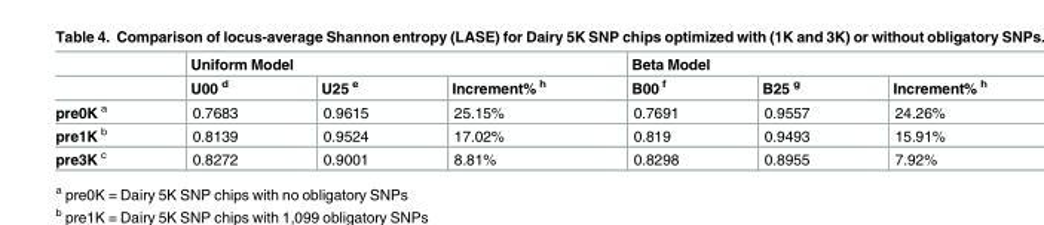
<table><thead><tr><td rowspan="2"></td><td colspan="3">Uniform Model</td><td colspan="3">Beta Model</td></tr><tr><td>U00 <sup>d</sup></td><td>U25 <sup>e</sup></td><td>Increment% <sup>h</sup></td><td>B00 <sup>f</sup></td><td>B25 <sup>g</sup></td><td>Increment% <sup>h</sup></td></tr></thead><tbody><tr><td>pre0K <sup>a</sup></td><td>0.7683</td><td>0.9615</td><td>25.15%</td><td>0.7691</td><td>0.9557</td><td>24.26%</td></tr><tr><td>pre1K <sup>b</sup></td><td>0.8139</td><td>0.9524</td><td>17.02%</td><td>0.819</td><td>0.9493</td><td>15.91%</td></tr><tr><td>pre3K <sup>c</sup></td><td>0.8272</td><td>0.9001</td><td>8.81%</td><td>0.8298</td><td>0.8955</td><td>7.92%</td></tr></tbody></table>